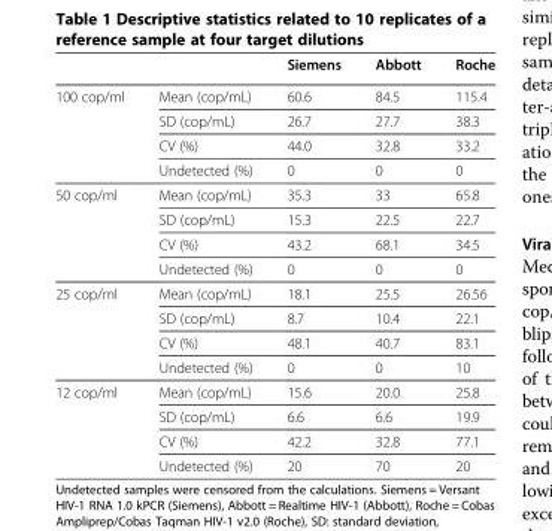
<table><thead><tr><td></td><td></td><td>Siemens</td><td>Abbott</td><td>Roche</td></tr></thead><tbody><tr><td rowspan="4">100 cop/ml</td><td>Mean (cop/mL)</td><td>60.6</td><td>84.5</td><td>115.4</td></tr><tr><td>SD (cop/mL)</td><td>26.7</td><td>27.7</td><td>38.3</td></tr><tr><td>CV (%)</td><td>44.0</td><td>32.8</td><td>33.2</td></tr><tr><td>Undetected (%)</td><td>0</td><td>0</td><td>0</td></tr><tr><td rowspan="4">50 cop/ml</td><td>Mean (cop/mL)</td><td>35.3</td><td>33</td><td>65.8</td></tr><tr><td>SD (cop/mL)</td><td>15.3</td><td>22.5</td><td>22.7</td></tr><tr><td>CV (%)</td><td>43.2</td><td>68.1</td><td>34.5</td></tr><tr><td>Undetected (%)</td><td>0</td><td>0</td><td>0</td></tr><tr><td rowspan="4">25 cop/ml</td><td>Mean (cop/mL)</td><td>18.1</td><td>25.5</td><td>26.56</td></tr><tr><td>SD (cop/mL)</td><td>8.7</td><td>10.4</td><td>22.1</td></tr><tr><td>CV (%)</td><td>48.1</td><td>40.7</td><td>83.1</td></tr><tr><td>Undetected (%)</td><td>0</td><td>0</td><td>10</td></tr><tr><td rowspan="4">12 cop/ml</td><td>Mean (cop/mL)</td><td>15.6</td><td>20.0</td><td>25.8</td></tr><tr><td>SD (cop/mL)</td><td>6.6</td><td>6.6</td><td>19.9</td></tr><tr><td>CV (%)</td><td>42.2</td><td>32.8</td><td>77.1</td></tr><tr><td>Undetected (%)</td><td>20</td><td>70</td><td>20</td></tr></tbody></table>